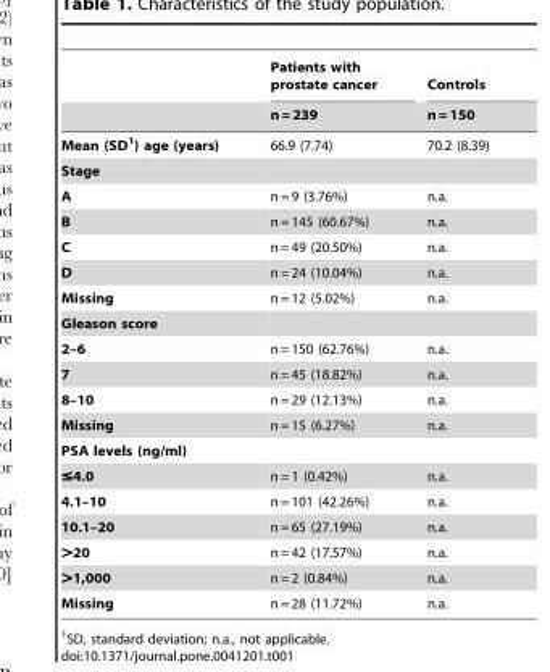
<table><thead><tr><td rowspan="2"></td><td rowspan="2">Patients with prostate cancer n = 239</td><td rowspan="2">Controls n = 150</td></tr><tr></tr></thead><tbody><tr><td>Mean (SD1) age (years)</td><td>66.9 (7.74)</td><td>70.2 (8.39)</td></tr><tr><td colspan="3">Stage</td></tr><tr><td>A</td><td>n = 9 (3.76%)</td><td>n.a.</td></tr><tr><td>B</td><td>n = 145 (60.67%)</td><td>n.a.</td></tr><tr><td>C</td><td>n = 49 (20.50%)</td><td>n.a.</td></tr><tr><td>D</td><td>n = 24 (10.04%)</td><td>n.a.</td></tr><tr><td>Missing</td><td>n = 12 (5.02%)</td><td>n.a.</td></tr><tr><td colspan="3">Gleason score</td></tr><tr><td>2–6</td><td>n = 150 (62.76%)</td><td>n.a.</td></tr><tr><td>7</td><td>n = 45 (18.82%)</td><td>n.a.</td></tr><tr><td>8–10</td><td>n = 29 (12.13%)</td><td>n.a.</td></tr><tr><td>Missing</td><td>n = 15 (6.27%)</td><td>n.a.</td></tr><tr><td colspan="3">PSA levels (ng/ml)</td></tr><tr><td>≤4.0</td><td>n = 1 (0.42%)</td><td>n.a.</td></tr><tr><td>4.1–10</td><td>n = 101 (42.26%)</td><td>n.a.</td></tr><tr><td>10.1–20</td><td>n = 65 (27.19%)</td><td>n.a.</td></tr><tr><td>&gt;20</td><td>n = 42 (17.57%)</td><td>n.a.</td></tr><tr><td>&gt;1,000</td><td>n = 2 (0.84%)</td><td>n.a.</td></tr><tr><td>Missing</td><td>n = 28 (11.72%)</td><td>n.a.</td></tr></tbody></table>